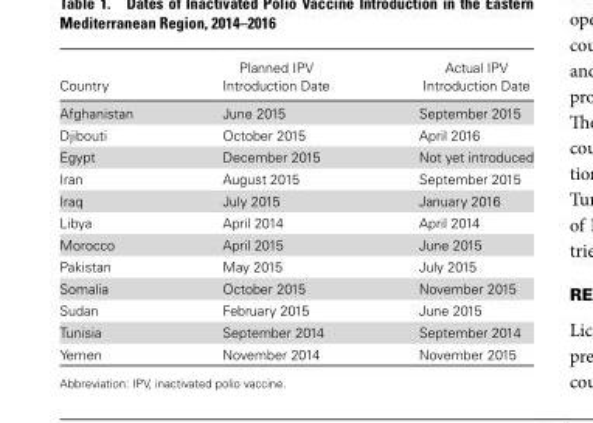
<table><thead><tr><td>Country</td><td>Planned IPV Introduction Date</td><td>Actual IPV Introduction Date</td></tr></thead><tbody><tr><td>Afghanistan</td><td>June 2015</td><td>September 2015</td></tr><tr><td>Djibouti</td><td>October 2015</td><td>April 2016</td></tr><tr><td>Egypt</td><td>December 2015</td><td>Not yet introduced</td></tr><tr><td>Iran</td><td>August 2015</td><td>September 2015</td></tr><tr><td>Iraq</td><td>July 2015</td><td>January 2016</td></tr><tr><td>Libya</td><td>April 2014</td><td>April 2014</td></tr><tr><td>Morocco</td><td>April 2015</td><td>June 2015</td></tr><tr><td>Pakistan</td><td>May 2015</td><td>July 2015</td></tr><tr><td>Somalia</td><td>October 2015</td><td>November 2015</td></tr><tr><td>Sudan</td><td>February 2015</td><td>June 2015</td></tr><tr><td>Tunisia</td><td>September 2014</td><td>September 2014</td></tr><tr><td>Yemen</td><td>November 2014</td><td>November 2015</td></tr></tbody></table>